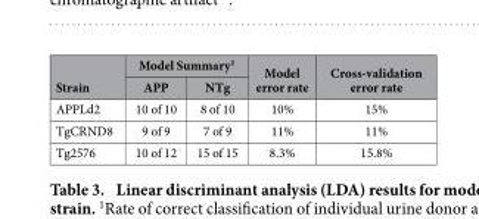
<table><thead><tr><td rowspan="2">Strain</td><td colspan="2">Model Summary<sup>1</sup></td><td rowspan="2">Model error rate</td><td rowspan="2">Cross-validation error rate</td></tr><tr><td>APP</td><td>NTg</td></tr></thead><tbody><tr><td>APPLd2</td><td>10 of 10</td><td>8 of 10</td><td>10%</td><td>15%</td></tr><tr><td>TgCRND8</td><td>9 of 9</td><td>7 of 9</td><td>11%</td><td>11%</td></tr><tr><td>Tg2576</td><td>10 of 12</td><td>15 of 15</td><td>8.3%</td><td>15.8%</td></tr></tbody></table>